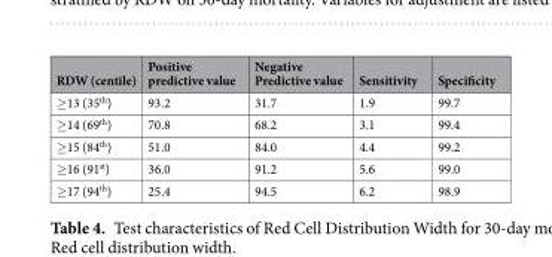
<table><thead><tr><td>RDW (centile)</td><td>Positive predictive value</td><td>Negative Predictive value</td><td>Sensitivity</td><td>Specificity</td></tr></thead><tbody><tr><td>≥13 (35<sup>th</sup>)</td><td>93.2</td><td>31.7</td><td>1.9</td><td>99.7</td></tr><tr><td>≥14 (69<sup>th</sup>)</td><td>70.8</td><td>68.2</td><td>3.1</td><td>99.4</td></tr><tr><td>≥15 (84<sup>th</sup>)</td><td>51.0</td><td>84.0</td><td>4.4</td><td>99.2</td></tr><tr><td>≥16 (91<sup>st</sup>)</td><td>36.0</td><td>91.2</td><td>5.6</td><td>99.0</td></tr><tr><td>≥17 (94<sup>th</sup>)</td><td>25.4</td><td>94.5</td><td>6.2</td><td>98.9</td></tr></tbody></table>